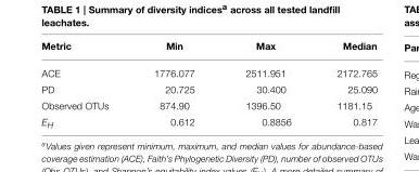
<table><thead><tr><td>Metric</td><td>Min</td><td>Max</td><td>Median</td></tr></thead><tbody><tr><td>ACE</td><td>1776.077</td><td>2511.951</td><td>2172.765</td></tr><tr><td>PD</td><td>20.725</td><td>30.400</td><td>25.090</td></tr><tr><td>Observed OTUs</td><td>874.90</td><td>1396.50</td><td>1181.15</td></tr><tr><td>EH</td><td>0.612</td><td>0.8856</td><td>0.817</td></tr></tbody></table>